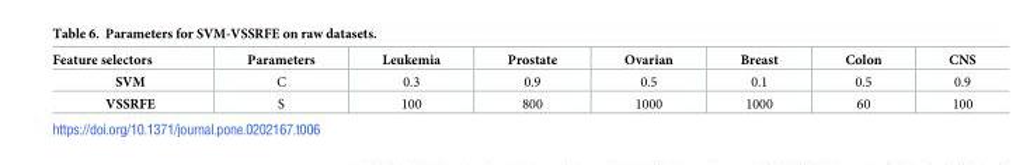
<table><thead><tr><td>Feature selectors</td><td>Parameters</td><td>Leukemia</td><td>Prostate</td><td>Ovarian</td><td>Breast</td><td>Colon</td><td>CNS</td></tr></thead><tbody><tr><td>SVM</td><td>C</td><td>0.3</td><td>0.9</td><td>0.5</td><td>0.1</td><td>0.5</td><td>0.9</td></tr><tr><td>VSSRFE</td><td>S</td><td>100</td><td>800</td><td>1000</td><td>1000</td><td>60</td><td>100</td></tr></tbody></table>